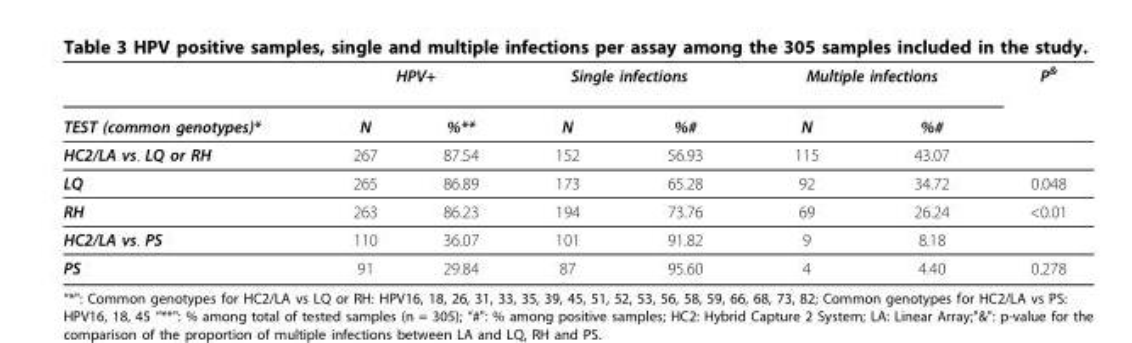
<table><thead><tr><td rowspan="2">TEST (common genotypes)*</td><td colspan="2">HPV+</td><td colspan="2">Single infections</td><td colspan="2">Multiple infections</td><td rowspan="2">P<sup>&amp;</sup></td></tr><tr><td>N</td><td>%**</td><td>N</td><td>%#</td><td>N</td><td>%#</td></tr></thead><tbody><tr><td>HC2/LA vs. LQ or RH</td><td>267</td><td>87.54</td><td>152</td><td>56.93</td><td>115</td><td>43.07</td><td></td></tr><tr><td>LQ</td><td>265</td><td>86.89</td><td>173</td><td>65.28</td><td>92</td><td>34.72</td><td>0.048</td></tr><tr><td>RH</td><td>263</td><td>86.23</td><td>194</td><td>73.76</td><td>69</td><td>26.24</td><td>&lt;0.01</td></tr><tr><td>HC2/LA vs. PS</td><td>110</td><td>36.07</td><td>101</td><td>91.82</td><td>9</td><td>8.18</td><td></td></tr><tr><td>PS</td><td>91</td><td>29.84</td><td>87</td><td>95.60</td><td>4</td><td>4.40</td><td>0.278</td></tr></tbody></table>